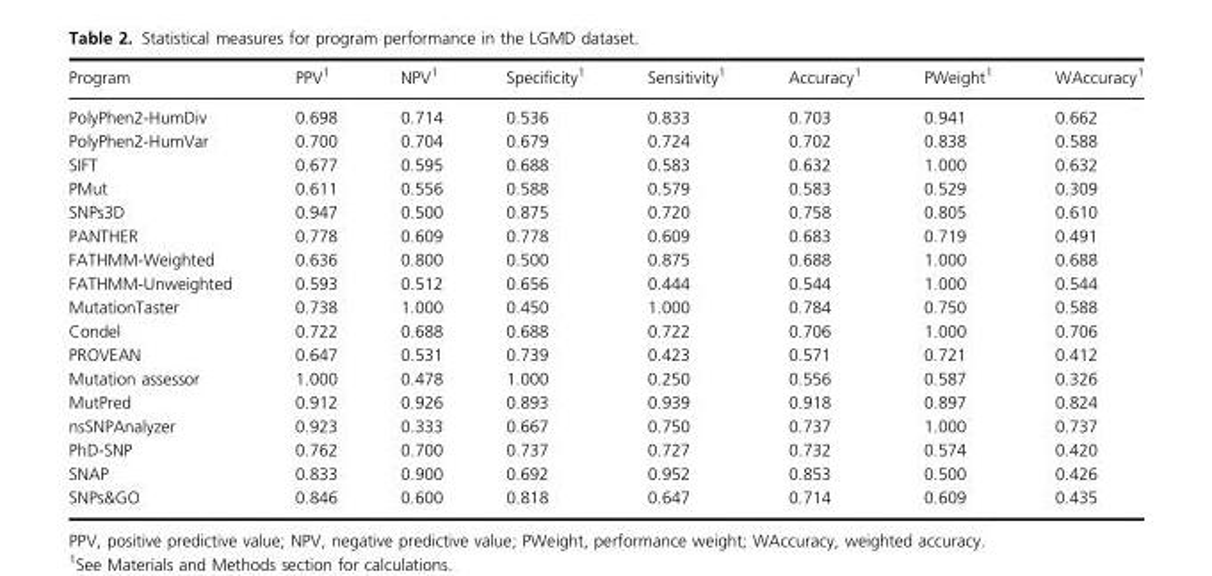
<table><thead><tr><td>Program</td><td>PPV<sup>1</sup></td><td>NPV<sup>1</sup></td><td>Specificity<sup>1</sup></td><td>Sensitivity<sup>1</sup></td><td>Accuracy<sup>1</sup></td><td>PWeight<sup>1</sup></td><td>WAccuracy<sup>1</sup></td></tr></thead><tbody><tr><td>PolyPhen2-HumDiv</td><td>0.698</td><td>0.714</td><td>0.536</td><td>0.833</td><td>0.703</td><td>0.941</td><td>0.662</td></tr><tr><td>PolyPhen2-HumVar</td><td>0.700</td><td>0.704</td><td>0.679</td><td>0.724</td><td>0.702</td><td>0.838</td><td>0.588</td></tr><tr><td>SIFT</td><td>0.677</td><td>0.595</td><td>0.688</td><td>0.583</td><td>0.632</td><td>1.000</td><td>0.632</td></tr><tr><td>PMut</td><td>0.611</td><td>0.556</td><td>0.588</td><td>0.579</td><td>0.583</td><td>0.529</td><td>0.309</td></tr><tr><td>SNPs3D</td><td>0.947</td><td>0.500</td><td>0.875</td><td>0.720</td><td>0.758</td><td>0.805</td><td>0.610</td></tr><tr><td>PANTHER</td><td>0.778</td><td>0.609</td><td>0.778</td><td>0.609</td><td>0.683</td><td>0.719</td><td>0.491</td></tr><tr><td>FATHMM-Weighted</td><td>0.636</td><td>0.800</td><td>0.500</td><td>0.875</td><td>0.688</td><td>1.000</td><td>0.688</td></tr><tr><td>FATHMM-Unweighted</td><td>0.593</td><td>0.512</td><td>0.656</td><td>0.444</td><td>0.544</td><td>1.000</td><td>0.544</td></tr><tr><td>MutationTaster</td><td>0.738</td><td>1.000</td><td>0.450</td><td>1.000</td><td>0.784</td><td>0.750</td><td>0.588</td></tr><tr><td>Condel</td><td>0.722</td><td>0.688</td><td>0.688</td><td>0.722</td><td>0.706</td><td>1.000</td><td>0.706</td></tr><tr><td>PROVEAN</td><td>0.647</td><td>0.531</td><td>0.739</td><td>0.423</td><td>0.571</td><td>0.721</td><td>0.412</td></tr><tr><td>Mutation assessor</td><td>1.000</td><td>0.478</td><td>1.000</td><td>0.250</td><td>0.556</td><td>0.587</td><td>0.326</td></tr><tr><td>MutPred</td><td>0.912</td><td>0.926</td><td>0.893</td><td>0.939</td><td>0.918</td><td>0.897</td><td>0.824</td></tr><tr><td>nsSNPAnalyzer</td><td>0.923</td><td>0.333</td><td>0.667</td><td>0.750</td><td>0.737</td><td>1.000</td><td>0.737</td></tr><tr><td>PhD-SNP</td><td>0.762</td><td>0.700</td><td>0.737</td><td>0.727</td><td>0.732</td><td>0.574</td><td>0.420</td></tr><tr><td>SNAP</td><td>0.833</td><td>0.900</td><td>0.692</td><td>0.952</td><td>0.853</td><td>0.500</td><td>0.426</td></tr><tr><td>SNPs&amp;GO</td><td>0.846</td><td>0.600</td><td>0.818</td><td>0.647</td><td>0.714</td><td>0.609</td><td>0.435</td></tr></tbody></table>